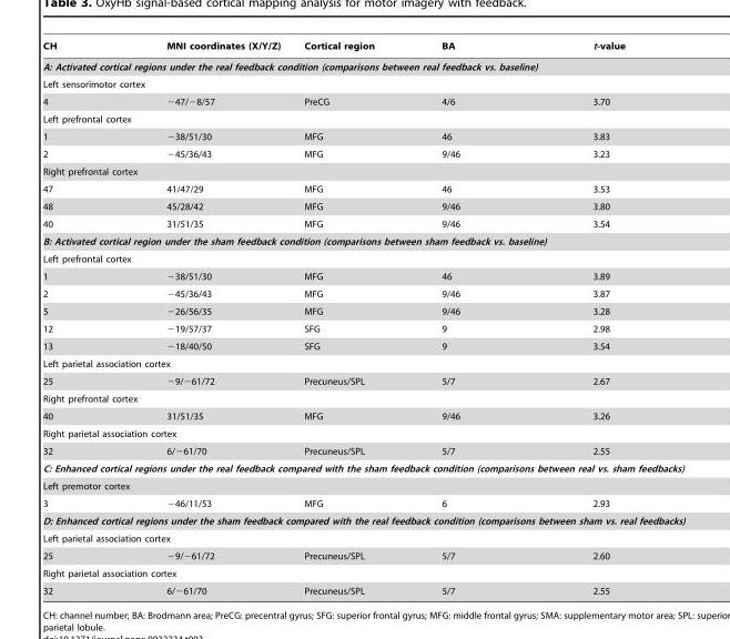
<table><thead><tr><td>CH</td><td>MNI coordinates (X/Y/Z)</td><td>Cortical region</td><td>BA</td><td>t-value</td></tr></thead><tbody><tr><td colspan="5">A: Activated cortical regions under the real feedback condition (comparisons between real feedback vs. baseline)</td></tr><tr><td colspan="5">Left sensorimotor cortex</td></tr><tr><td>4</td><td>−47/−8/57</td><td>PreCG</td><td>4/6</td><td>3.70</td></tr><tr><td colspan="5">Left prefrontal cortex</td></tr><tr><td>1</td><td>−38/51/30</td><td>MFG</td><td>46</td><td>3.83</td></tr><tr><td>2</td><td>−45/36/43</td><td>MFG</td><td>9/46</td><td>3.23</td></tr><tr><td colspan="5">Right prefrontal cortex</td></tr><tr><td>47</td><td>41/47/29</td><td>MFG</td><td>46</td><td>3.53</td></tr><tr><td>48</td><td>45/28/42</td><td>MFG</td><td>9/46</td><td>3.80</td></tr><tr><td>40</td><td>31/51/35</td><td>MFG</td><td>9/46</td><td>3.54</td></tr><tr><td colspan="5">B: Activated cortical region under the sham feedback condition (comparisons between sham feedback vs. baseline)</td></tr><tr><td colspan="5">Left prefrontal cortex</td></tr><tr><td>1</td><td>−38/51/30</td><td>MFG</td><td>46</td><td>3.89</td></tr><tr><td>2</td><td>−45/36/43</td><td>MFG</td><td>9/46</td><td>3.87</td></tr><tr><td>5</td><td>−26/56/35</td><td>MFG</td><td>9/46</td><td>3.28</td></tr><tr><td>12</td><td>−19/57/37</td><td>SFG</td><td>9</td><td>2.98</td></tr><tr><td>13</td><td>−18/40/50</td><td>SFG</td><td>9</td><td>3.54</td></tr><tr><td colspan="5">Left parietal association cortex</td></tr><tr><td>25</td><td>−9/−61/72</td><td>Precuneus/SPL</td><td>5/7</td><td>2.67</td></tr><tr><td colspan="5">Right prefrontal cortex</td></tr><tr><td>40</td><td>31/51/35</td><td>MFG</td><td>9/46</td><td>3.26</td></tr><tr><td colspan="5">Right parietal association cortex</td></tr><tr><td>32</td><td>6/−61/70</td><td>Precuneus/SPL</td><td>5/7</td><td>2.55</td></tr><tr><td colspan="5">C: Enhanced cortical regions under the real feedback compared with the sham feedback condition (comparisons between real vs. sham feedbacks)</td></tr><tr><td colspan="5">Left premotor cortex</td></tr><tr><td>3</td><td>−46/11/53</td><td>MFG</td><td>6</td><td>2.93</td></tr><tr><td colspan="5">D: Enhanced cortical regions under the sham feedback compared with the real feedback condition (comparisons between sham vs. real feedbacks)</td></tr><tr><td colspan="5">Left parietal association cortex</td></tr><tr><td>25</td><td>−9/−61/72</td><td>Precuneus/SPL</td><td>5/7</td><td>2.60</td></tr><tr><td colspan="5">Right parietal association cortex</td></tr><tr><td>32</td><td>6/−61/70</td><td>Precuneus/SPL</td><td>5/7</td><td>2.55</td></tr></tbody></table>